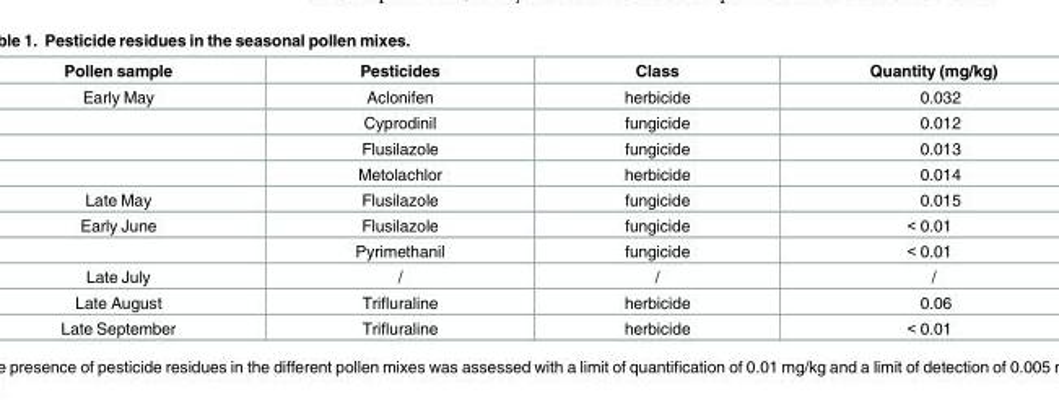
<table><thead><tr><td>Pollen sample</td><td>Pesticides</td><td>Class</td><td>Quantity (mg/kg)</td></tr></thead><tbody><tr><td rowspan="4">Early May</td><td>Aclonifen</td><td>herbicide</td><td>0.032</td></tr><tr><td>Cyprodinil</td><td>fungicide</td><td>0.012</td></tr><tr><td>Flusilazole</td><td>fungicide</td><td>0.013</td></tr><tr><td>Metolachlor</td><td>herbicide</td><td>0.014</td></tr><tr><td>Late May</td><td>Flusilazole</td><td>fungicide</td><td>0.015</td></tr><tr><td rowspan="2">Early June</td><td>Flusilazole</td><td>fungicide</td><td>&lt; 0.01</td></tr><tr><td>Pyrimethanil</td><td>fungicide</td><td>&lt; 0.01</td></tr><tr><td>Late July</td><td>/</td><td>/</td><td>/</td></tr><tr><td>Late August</td><td>Trifluraline</td><td>herbicide</td><td>0.06</td></tr><tr><td>Late September</td><td>Trifluraline</td><td>herbicide</td><td>&lt; 0.01</td></tr></tbody></table>